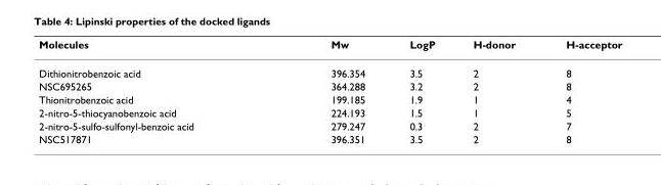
<table><thead><tr><td>Molecules</td><td>Mw</td><td>LogP</td><td>H-donor</td><td>H-acceptor</td></tr></thead><tbody><tr><td>Dithionitrobenzoic acid</td><td>396.354</td><td>3.5</td><td>2</td><td>8</td></tr><tr><td>NSC695265</td><td>364.288</td><td>3.2</td><td>2</td><td>8</td></tr><tr><td>Thionitrobenzoic acid</td><td>199.185</td><td>1.9</td><td>1</td><td>4</td></tr><tr><td>2-nitro-5-thiocyanobenzoic acid</td><td>224.193</td><td>1.5</td><td>1</td><td>5</td></tr><tr><td>2-nitro-5-sulfo-sulfonyl-benzoic acid</td><td>279.247</td><td>0.3</td><td>2</td><td>7</td></tr><tr><td>NSC517871</td><td>396.351</td><td>3.5</td><td>2</td><td>8</td></tr></tbody></table>